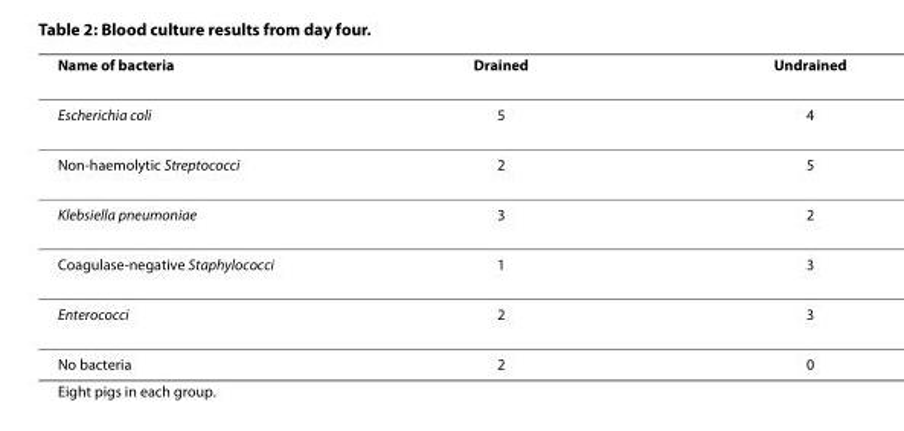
<table><thead><tr><td>Name of bacteria</td><td>Drained</td><td>Undrained</td></tr></thead><tbody><tr><td>Escherichia coli</td><td>5</td><td>4</td></tr><tr><td>Non-haemolytic Streptococci</td><td>2</td><td>5</td></tr><tr><td>Klebsiella pneumoniae</td><td>3</td><td>2</td></tr><tr><td>Coagulase-negative Staphylococci</td><td>1</td><td>3</td></tr><tr><td>Enterococci</td><td>2</td><td>3</td></tr><tr><td>No bacteria</td><td>2</td><td>0</td></tr></tbody></table>